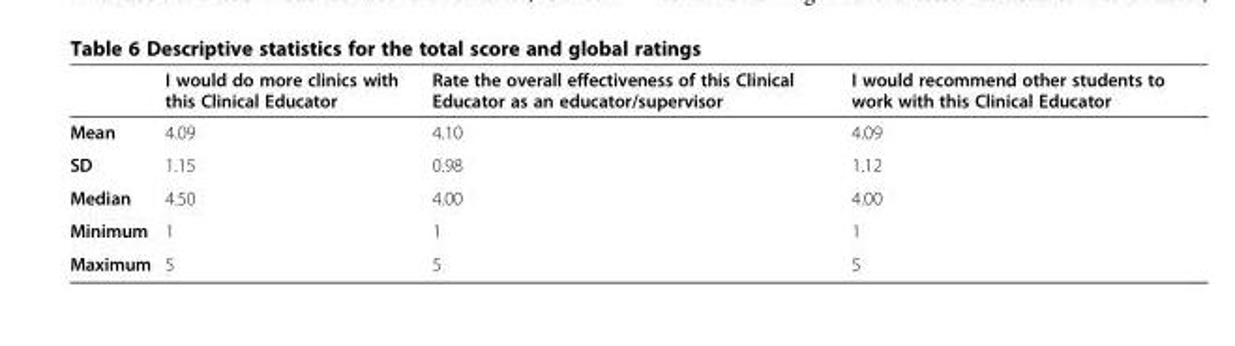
<table><thead><tr><td></td><td>I would do more clinics with this Clinical Educator</td><td>Rate the overall effectiveness of this Clinical Educator as an educator/supervisor</td><td>I would recommend other students to work with this Clinical Educator</td></tr></thead><tbody><tr><td>Mean</td><td>4.09</td><td>4.10</td><td>4.09</td></tr><tr><td>SD</td><td>1.15</td><td>0.98</td><td>1.12</td></tr><tr><td>Median</td><td>4.50</td><td>4.00</td><td>4.00</td></tr><tr><td>Minimum</td><td>1</td><td>1</td><td>1</td></tr><tr><td>Maximum</td><td>5</td><td>5</td><td>5</td></tr></tbody></table>